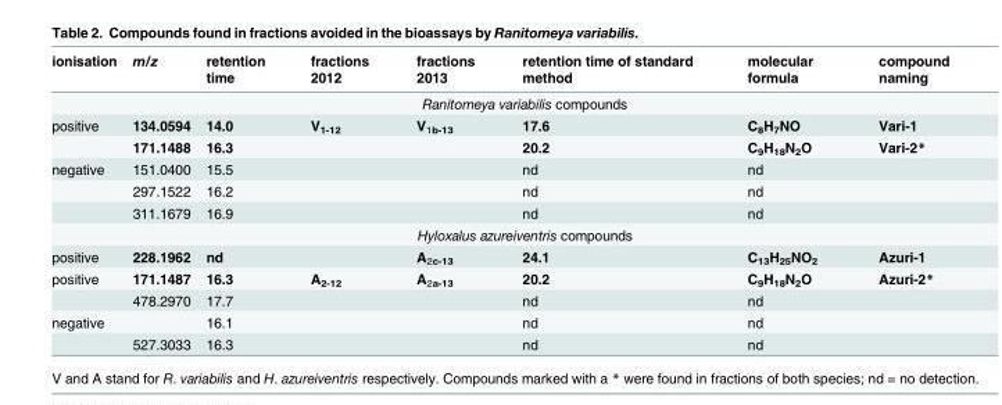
<table><thead><tr><td>ionisation</td><td>m/z</td><td>retention time</td><td>fractions 2012</td><td>fractions 2013</td><td>retention time of standard method</td><td>molecular formula</td><td>compound naming</td></tr></thead><tbody><tr><td colspan="8">Ranitomeya variabilis compounds</td></tr><tr><td rowspan="2">positive</td><td>134.0594</td><td>14.0</td><td>V<sub>1-12</sub></td><td>V<sub>1b-13</sub></td><td>17.6</td><td>C<sub>8</sub>H<sub>7</sub>NO</td><td>Vari-1</td></tr><tr><td>171.1488</td><td>16.3</td><td></td><td></td><td>20.2</td><td>C<sub>9</sub>H<sub>18</sub>N<sub>2</sub>O</td><td>Vari-2*</td></tr><tr><td rowspan="3">negative</td><td>151.0400</td><td>15.5</td><td></td><td></td><td>nd</td><td>nd</td><td></td></tr><tr><td>297.1522</td><td>16.2</td><td></td><td></td><td>nd</td><td>nd</td><td></td></tr><tr><td>311.1679</td><td>16.9</td><td></td><td></td><td>nd</td><td>nd</td><td></td></tr><tr><td colspan="8">Hyloxalus azureiventris compounds</td></tr><tr><td>positive</td><td>228.1962</td><td>nd</td><td></td><td>A<sub>2c-13</sub></td><td>24.1</td><td>C<sub>13</sub>H<sub>25</sub>NO<sub>2</sub></td><td>Azuri-1</td></tr><tr><td rowspan="2">positive</td><td>171.1487</td><td>16.3</td><td>A<sub>2-12</sub></td><td>A<sub>2a-13</sub></td><td>20.2</td><td>C<sub>9</sub>H<sub>18</sub>N<sub>2</sub>O</td><td>Azuri-2*</td></tr><tr><td>478.2970</td><td>17.7</td><td></td><td></td><td>nd</td><td>nd</td><td></td></tr><tr><td rowspan="2">negative</td><td></td><td>16.1</td><td></td><td></td><td>nd</td><td>nd</td><td></td></tr><tr><td>527.3033</td><td>16.3</td><td></td><td></td><td>nd</td><td>nd</td><td></td></tr></tbody></table>